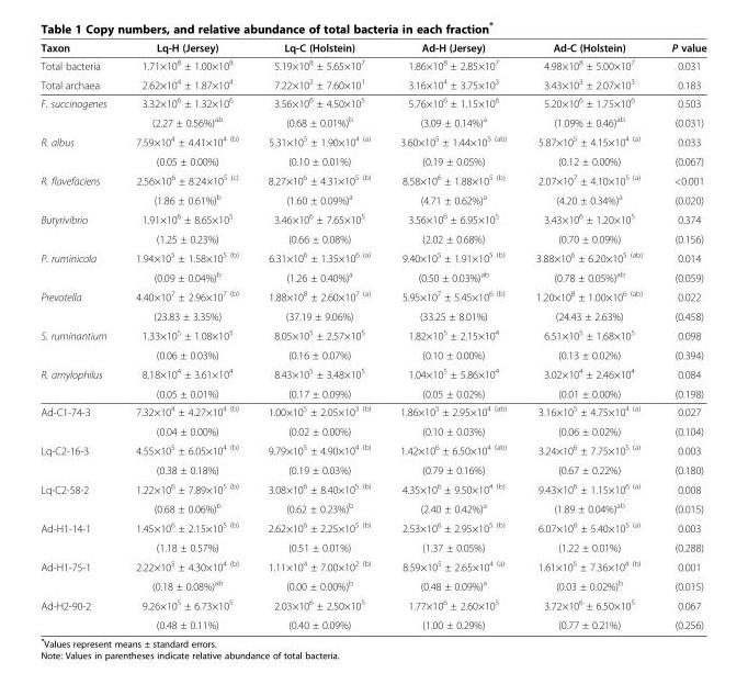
<table><thead><tr><td>Taxon</td><td>Lq-H (Jersey)</td><td>Lq-C (Holstein)</td><td>Ad-H (Jersey)</td><td>Ad-C (Holstein)</td><td>P value</td></tr></thead><tbody><tr><td>Total bacteria</td><td>1.71×10<sup>8</sup> ± 1.00×10<sup>8</sup></td><td>5.19×10<sup>8</sup> ± 5.65×10<sup>7</sup></td><td>1.86×10<sup>8</sup> ± 2.85×10<sup>7</sup></td><td>4.98×10<sup>8</sup> ± 5.00×10<sup>7</sup></td><td>0.031</td></tr><tr><td>Total archaea</td><td>2.62×10<sup>4</sup> ± 1.87×10<sup>4</sup></td><td>7.22×10<sup>2</sup> ± 7.60×10<sup>1</sup></td><td>3.16×10<sup>4</sup> ± 3.75×10<sup>3</sup></td><td>3.43×10<sup>3</sup> ± 2.07×10<sup>3</sup></td><td>0.183</td></tr><tr><td rowspan="2">F. succinogenes</td><td>3.32×10<sup>6</sup> ± 1.32×10<sup>6</sup></td><td>3.56×10<sup>6</sup> ± 4.50×10<sup>5</sup></td><td>5.76×10<sup>6</sup> ± 1.15×10<sup>6</sup></td><td>5.20×10<sup>6</sup> ± 1.75×10<sup>6</sup></td><td>0.503</td></tr><tr><td>(2.27 ± 0.56%)<sup>ab</sup></td><td>(0.68 ± 0.01%)<sup>b</sup></td><td>(3.09 ± 0.14%)<sup>a</sup></td><td>(1.09% ± 0.46)<sup>ab</sup></td><td>(0.031)</td></tr><tr><td rowspan="2">R. albus</td><td>7.59×10<sup>4</sup> ± 4.41×10<sup>4 (b)</sup></td><td>5.31×10<sup>5</sup> ± 1.90×10<sup>4 (a)</sup></td><td>3.60×10<sup>5</sup> ± 1.44×10<sup>5 (ab)</sup></td><td>5.87×10<sup>5</sup> ± 4.15×10<sup>4 (a)</sup></td><td>0.033</td></tr><tr><td>(0.05 ± 0.00%)</td><td>(0.10 ± 0.01%)</td><td>(0.19 ± 0.05%)</td><td>(0.12 ± 0.00%)</td><td>(0.067)</td></tr><tr><td rowspan="2">R. flavefaciens</td><td>2.56×10<sup>6</sup> ± 8.24×10<sup>5 (c)</sup></td><td>8.27×10<sup>6</sup> ± 4.31×10<sup>5 (b)</sup></td><td>8.58×10<sup>6</sup> ± 1.88×10<sup>5 (b)</sup></td><td>2.07×10<sup>7</sup> ± 4.10×10<sup>5 (a)</sup></td><td>&lt;0.001</td></tr><tr><td>(1.86 ± 0.61%)<sup>b</sup></td><td>(1.60 ± 0.09%)<sup>a</sup></td><td>(4.71 ± 0.62%)<sup>a</sup></td><td>(4.20 ± 0.34%)<sup>a</sup></td><td>(0.020)</td></tr><tr><td rowspan="2">Butyrivibrio</td><td>1.91×10<sup>6</sup> ± 8.65×10<sup>5</sup></td><td>3.46×10<sup>6</sup> ± 7.65×10<sup>5</sup></td><td>3.56×10<sup>6</sup> ± 6.95×10<sup>5</sup></td><td>3.43×10<sup>6</sup> ± 1.20×10<sup>5</sup></td><td>0.374</td></tr><tr><td>(1.25 ± 0.23%)</td><td>(0.66 ± 0.08%)</td><td>(2.02 ± 0.68%)</td><td>(0.70 ± 0.09%)</td><td>(0.156)</td></tr><tr><td rowspan="2">P. ruminicola</td><td>1.94×10<sup>5</sup> ± 1.58×10<sup>5 (b)</sup></td><td>6.31×10<sup>6</sup> ± 1.35×10<sup>6 (a)</sup></td><td>9.40×10<sup>5</sup> ± 1.91×10<sup>5 (b)</sup></td><td>3.88×10<sup>6</sup> ± 6.20×10<sup>5 (ab)</sup></td><td>0.014</td></tr><tr><td>(0.09 ± 0.04%)<sup>b</sup></td><td>(1.26 ± 0.40%)<sup>a</sup></td><td>(0.50 ± 0.03%)<sup>ab</sup></td><td>(0.78 ± 0.05%)<sup>ab</sup></td><td>(0.059)</td></tr><tr><td rowspan="2">Prevotella</td><td>4.40×10<sup>7</sup> ± 2.96×10<sup>7 (b)</sup></td><td>1.88×10<sup>8</sup> ± 2.60×10<sup>7 (a)</sup></td><td>5.95×10<sup>7</sup> ± 5.45×10<sup>6 (b)</sup></td><td>1.20×10<sup>8</sup> ± 1.00×10<sup>6 (ab)</sup></td><td>0.022</td></tr><tr><td>(23.83 ± 3.35%)</td><td>(37.19 ± 9.06%)</td><td>(33.25 ± 8.01%)</td><td>(24.43 ± 2.63%)</td><td>(0.458)</td></tr><tr><td rowspan="2">S. ruminantium</td><td>1.33×10<sup>5</sup> ± 1.08×10<sup>5</sup></td><td>8.05×10<sup>5</sup> ± 2.57×10<sup>5</sup></td><td>1.82×10<sup>5</sup> ± 2.15×10<sup>4</sup></td><td>6.51×10<sup>5</sup> ± 1.68×10<sup>5</sup></td><td>0.098</td></tr><tr><td>(0.06 ± 0.03%)</td><td>(0.16 ± 0.07%)</td><td>(0.10 ± 0.00%)</td><td>(0.13 ± 0.02%)</td><td>(0.394)</td></tr><tr><td rowspan="2">R. amylophilus</td><td>8.18×10<sup>4</sup> ± 3.61×10<sup>4</sup></td><td>8.43×10<sup>5</sup> ± 3.48×10<sup>5</sup></td><td>1.04×10<sup>5</sup> ± 5.86×10<sup>4</sup></td><td>3.02×10<sup>4</sup> ± 2.46×10<sup>4</sup></td><td>0.084</td></tr><tr><td>(0.05 ± 0.01%)</td><td>(0.17 ± 0.09%)</td><td>(0.05 ± 0.02%)</td><td>(0.01 ± 0.00%)</td><td>(0.198)</td></tr><tr><td rowspan="2">Ad-C1-74-3</td><td>7.32×10<sup>4</sup> ± 4.27×10<sup>4 (b)</sup></td><td>1.00×10<sup>5</sup> ± 2.05×10<sup>3 (b)</sup></td><td>1.86×10<sup>5</sup> ± 2.95×10<sup>4 (ab)</sup></td><td>3.16×10<sup>5</sup> ± 4.75×10<sup>4 (a)</sup></td><td>0.027</td></tr><tr><td>(0.04 ± 0.00%)</td><td>(0.02 ± 0.00%)</td><td>(0.10 ± 0.03%)</td><td>(0.06 ± 0.02%)</td><td>(0.104)</td></tr><tr><td rowspan="2">Lq-C2-16-3</td><td>4.55×10<sup>5</sup> ± 6.05×10<sup>4 (b)</sup></td><td>9.79×10<sup>5</sup> ± 4.90×10<sup>4 (b)</sup></td><td>1.42×10<sup>6</sup> ± 6.50×10<sup>4 (ab)</sup></td><td>3.24×10<sup>6</sup> ± 7.75×10<sup>5 (a)</sup></td><td>0.003</td></tr><tr><td>(0.38 ± 0.18%)</td><td>(0.19 ± 0.03%)</td><td>(0.79 ± 0.16%)</td><td>(0.67 ± 0.22%)</td><td>(0.180)</td></tr><tr><td rowspan="2">Lq-C2-58-2</td><td>1.22×10<sup>6</sup> ± 7.89×10<sup>5 (b)</sup></td><td>3.08×10<sup>6</sup> ± 8.40×10<sup>5 (b)</sup></td><td>4.35×10<sup>6</sup> ± 9.50×10<sup>4 (b)</sup></td><td>9.43×10<sup>6</sup> ± 1.15×10<sup>6 (a)</sup></td><td>0.008</td></tr><tr><td>(0.68 ± 0.06%)<sup>b</sup></td><td>(0.62 ± 0.23%)<sup>b</sup></td><td>(2.40 ± 0.42%)<sup>a</sup></td><td>(1.89 ± 0.04%)<sup>ab</sup></td><td>(0.015)</td></tr><tr><td rowspan="2">Ad-H1-14-1</td><td>1.45×10<sup>6</sup> ± 2.15×10<sup>5 (b)</sup></td><td>2.62×10<sup>6</sup> ± 2.25×10<sup>5 (b)</sup></td><td>2.53×10<sup>6</sup> ± 2.95×10<sup>5 (b)</sup></td><td>6.07×10<sup>6</sup> ± 5.40×10<sup>5 (a)</sup></td><td>0.003</td></tr><tr><td>(1.18 ± 0.57%)</td><td>(0.51 ± 0.01%)</td><td>(1.37 ± 0.05%)</td><td>(1.22 ± 0.01%)</td><td>(0.288)</td></tr><tr><td rowspan="2">Ad-H1-75-1</td><td>2.22×10<sup>5</sup> ± 4.30×10<sup>4 (b)</sup></td><td>1.11×10<sup>4</sup> ± 7.00×10<sup>2 (b)</sup></td><td>8.59×10<sup>5</sup> ± 2.65×10<sup>4 (a)</sup></td><td>1.61×10<sup>5</sup> ± 7.36×10<sup>4 (b)</sup></td><td>0.001</td></tr><tr><td>(0.18 ± 0.08%)<sup>ab</sup></td><td>(0.00 ± 0.00%)<sup>b</sup></td><td>(0.48 ± 0.09%)<sup>a</sup></td><td>(0.03 ± 0.02%)<sup>b</sup></td><td>(0.015)</td></tr><tr><td rowspan="2">Ad-H2-90-2</td><td>9.26×10<sup>5</sup> ± 6.73×10<sup>5</sup></td><td>2.03×10<sup>6</sup> ± 2.50×10<sup>5</sup></td><td>1.77×10<sup>6</sup> ± 2.60×10<sup>5</sup></td><td>3.72×10<sup>6</sup> ± 6.50×10<sup>5</sup></td><td>0.067</td></tr><tr><td>(0.48 ± 0.11%)</td><td>(0.40 ± 0.09%)</td><td>(1.00 ± 0.29%)</td><td>(0.77 ± 0.21%)</td><td>(0.256)</td></tr></tbody></table>